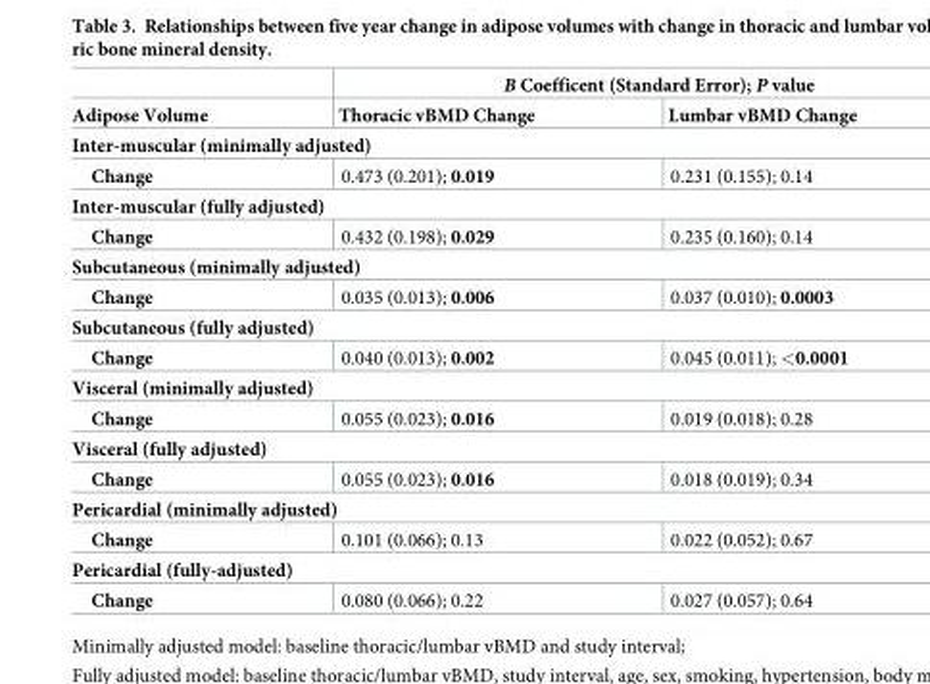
<table><thead><tr><td rowspan="2">Adipose Volume</td><td colspan="2">Β Coefficent (Standard Error); P value</td></tr><tr><td>Thoracic vBMD Change</td><td>Lumbar vBMD Change</td></tr></thead><tbody><tr><td colspan="3">Inter-muscular (minimally adjusted)</td></tr><tr><td>Change</td><td>0.473 (0.201); 0.019</td><td>0.231 (0.155); 0.14</td></tr><tr><td colspan="3">Inter-muscular (fully adjusted)</td></tr><tr><td>Change</td><td>0.432 (0.198); 0.029</td><td>0.235 (0.160); 0.14</td></tr><tr><td colspan="3">Subcutaneous (minimally adjusted)</td></tr><tr><td>Change</td><td>0.035 (0.013); 0.006</td><td>0.037 (0.010); 0.0003</td></tr><tr><td colspan="3">Subcutaneous (fully adjusted)</td></tr><tr><td>Change</td><td>0.040 (0.013); 0.002</td><td>0.045 (0.011); &lt;0.0001</td></tr><tr><td colspan="3">Visceral (minimally adjusted)</td></tr><tr><td>Change</td><td>0.055 (0.023); 0.016</td><td>0.019 (0.018); 0.28</td></tr><tr><td colspan="3">Visceral (fully adjusted)</td></tr><tr><td>Change</td><td>0.055 (0.023); 0.016</td><td>0.018 (0.019); 0.34</td></tr><tr><td colspan="3">Pericardial (minimally adjusted)</td></tr><tr><td>Change</td><td>0.101 (0.066); 0.13</td><td>0.022 (0.052); 0.67</td></tr><tr><td colspan="3">Pericardial (fully-adjusted)</td></tr><tr><td>Change</td><td>0.080 (0.066); 0.22</td><td>0.027 (0.057); 0.64</td></tr></tbody></table>